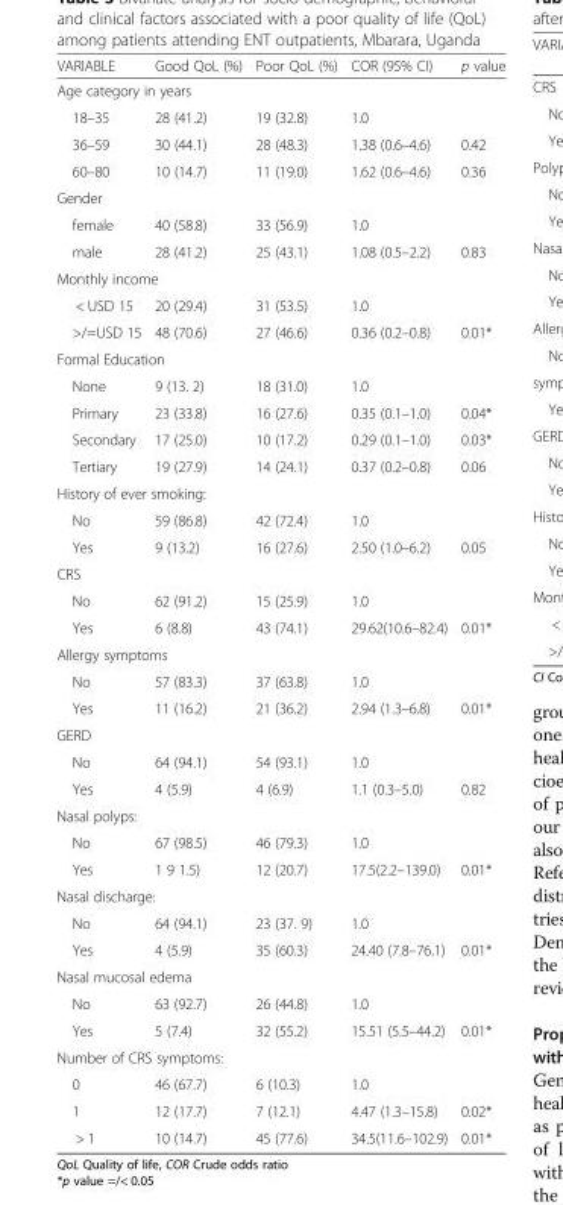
<table><thead><tr><td>VARIABLE</td><td>Good QoL (%)</td><td>Poor QoL (%)</td><td>COR (95% CI)</td><td>p value</td></tr></thead><tbody><tr><td colspan="5">Age category in years</td></tr><tr><td>18–35</td><td>28 (41.2)</td><td>19 (32.8)</td><td>1.0</td><td></td></tr><tr><td>36–59</td><td>30 (44.1)</td><td>28 (48.3)</td><td>1.38 (0.6–4.6)</td><td>0.42</td></tr><tr><td>60–80</td><td>10 (14.7)</td><td>11 (19.0)</td><td>1.62 (0.6–4.6)</td><td>0.36</td></tr><tr><td colspan="5">Gender</td></tr><tr><td>female</td><td>40 (58.8)</td><td>33 (56.9)</td><td>1.0</td><td></td></tr><tr><td>male</td><td>28 (41.2)</td><td>25 (43.1)</td><td>1.08 (0.5–2.2)</td><td>0.83</td></tr><tr><td colspan="5">Monthly income</td></tr><tr><td>&lt; USD 15</td><td>20 (29.4)</td><td>31 (53.5)</td><td>1.0</td><td></td></tr><tr><td>&gt;/=USD 15</td><td>48 (70.6)</td><td>27 (46.6)</td><td>0.36 (0.2–0.8)</td><td>0.01*</td></tr><tr><td colspan="5">Formal Education</td></tr><tr><td>None</td><td>9 (13. 2)</td><td>18 (31.0)</td><td>1.0</td><td></td></tr><tr><td>Primary</td><td>23 (33.8)</td><td>16 (27.6)</td><td>0.35 (0.1–1.0)</td><td>0.04*</td></tr><tr><td>Secondary</td><td>17 (25.0)</td><td>10 (17.2)</td><td>0.29 (0.1–1.0)</td><td>0.03*</td></tr><tr><td>Tertiary</td><td>19 (27.9)</td><td>14 (24.1)</td><td>0.37 (0.2–0.8)</td><td>0.06</td></tr><tr><td colspan="5">History of ever smoking:</td></tr><tr><td>No</td><td>59 (86.8)</td><td>42 (72.4)</td><td>1.0</td><td></td></tr><tr><td>Yes</td><td>9 (13.2)</td><td>16 (27.6)</td><td>2.50 (1.0–6.2)</td><td>0.05</td></tr><tr><td colspan="5">CRS</td></tr><tr><td>No</td><td>62 (91.2)</td><td>15 (25.9)</td><td>1.0</td><td></td></tr><tr><td>Yes</td><td>6 (8.8)</td><td>43 (74.1)</td><td>29.62(10.6–82.4)</td><td>0.01*</td></tr><tr><td colspan="5">Allergy symptoms</td></tr><tr><td>No</td><td>57 (83.3)</td><td>37 (63.8)</td><td>1.0</td><td></td></tr><tr><td>Yes</td><td>11 (16.2)</td><td>21 (36.2)</td><td>2.94 (1.3–6.8)</td><td>0.01*</td></tr><tr><td colspan="5">GERD</td></tr><tr><td>No</td><td>64 (94.1)</td><td>54 (93.1)</td><td>1.0</td><td></td></tr><tr><td>Yes</td><td>4 (5.9)</td><td>4 (6.9)</td><td>1.1 (0.3–5.0)</td><td>0.82</td></tr><tr><td colspan="5">Nasal polyps:</td></tr><tr><td>No</td><td>67 (98.5)</td><td>46 (79.3)</td><td>1.0</td><td></td></tr><tr><td>Yes</td><td>1 9 1.5)</td><td>12 (20.7)</td><td>17.5(2.2–139.0)</td><td>0.01*</td></tr><tr><td colspan="5">Nasal discharge:</td></tr><tr><td>No</td><td>64 (94.1)</td><td>23 (37. 9)</td><td>1.0</td><td></td></tr><tr><td>Yes</td><td>4 (5.9)</td><td>35 (60.3)</td><td>24.40 (7.8–76.1)</td><td>0.01*</td></tr><tr><td colspan="5">Nasal mucosal edema</td></tr><tr><td>No</td><td>63 (92.7)</td><td>26 (44.8)</td><td>1.0</td><td></td></tr><tr><td>Yes</td><td>5 (7.4)</td><td>32 (55.2)</td><td>15.51 (5.5–44.2)</td><td>0.01*</td></tr><tr><td colspan="5">Number of CRS symptoms:</td></tr><tr><td>0</td><td>46 (67.7)</td><td>6 (10.3)</td><td>1.0</td><td></td></tr><tr><td>1</td><td>12 (17.7)</td><td>7 (12.1)</td><td>4.47 (1.3–15.8)</td><td>0.02*</td></tr><tr><td>&gt; 1</td><td>10 (14.7)</td><td>45 (77.6)</td><td>34.5(11.6–102.9)</td><td>0.01*</td></tr></tbody></table>